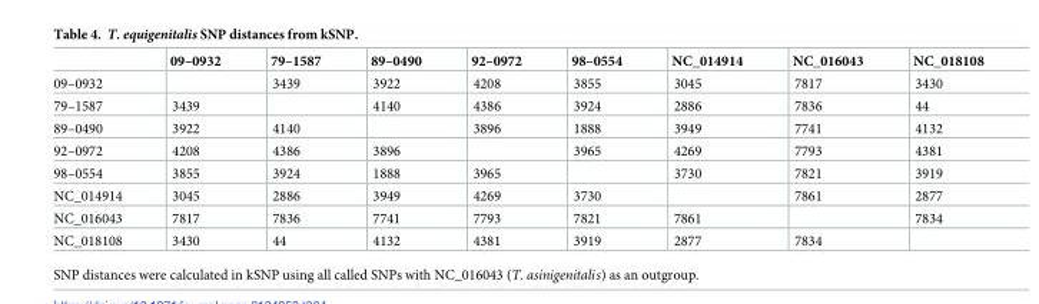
<table><thead><tr><td></td><td>09–0932</td><td>79–1587</td><td>89–0490</td><td>92–0972</td><td>98–0554</td><td>NC_014914</td><td>NC_016043</td><td>NC_018108</td></tr></thead><tbody><tr><td>09–0932</td><td></td><td>3439</td><td>3922</td><td>4208</td><td>3855</td><td>3045</td><td>7817</td><td>3430</td></tr><tr><td>79–1587</td><td>3439</td><td></td><td>4140</td><td>4386</td><td>3924</td><td>2886</td><td>7836</td><td>44</td></tr><tr><td>89–0490</td><td>3922</td><td>4140</td><td></td><td>3896</td><td>1888</td><td>3949</td><td>7741</td><td>4132</td></tr><tr><td>92–0972</td><td>4208</td><td>4386</td><td>3896</td><td></td><td>3965</td><td>4269</td><td>7793</td><td>4381</td></tr><tr><td>98–0554</td><td>3855</td><td>3924</td><td>1888</td><td>3965</td><td></td><td>3730</td><td>7821</td><td>3919</td></tr><tr><td>NC_014914</td><td>3045</td><td>2886</td><td>3949</td><td>4269</td><td>3730</td><td></td><td>7861</td><td>2877</td></tr><tr><td>NC_016043</td><td>7817</td><td>7836</td><td>7741</td><td>7793</td><td>7821</td><td>7861</td><td></td><td>7834</td></tr><tr><td>NC_018108</td><td>3430</td><td>44</td><td>4132</td><td>4381</td><td>3919</td><td>2877</td><td>7834</td><td></td></tr></tbody></table>